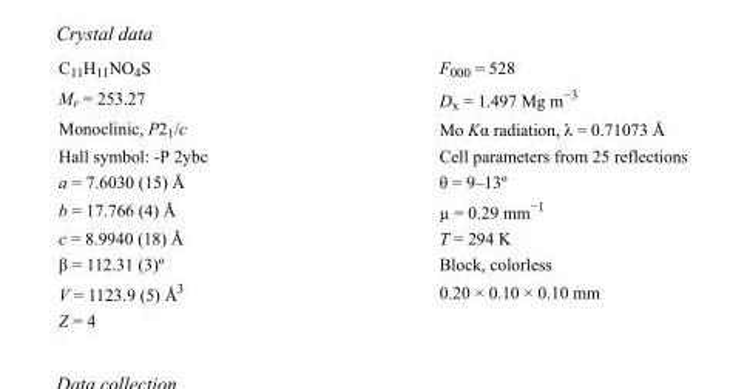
<table><tbody><tr><td>C<sub>11</sub>H<sub>11</sub>NO<sub>4</sub>S</td><td>F000 = 528</td></tr><tr><td>M<sub>r</sub> = 253.27</td><td>D<sub>x</sub> = 1.497 Mg m<sup>−3</sup></td></tr><tr><td>Monoclinic, P2<sub>1</sub>/c</td><td>Mo Kα radiation, λ = 0.71073 Å</td></tr><tr><td>Hall symbol: -P 2ybc</td><td>Cell parameters from 25 reflections</td></tr><tr><td>a = 7.6030 (15) Å</td><td>θ = 9–13º</td></tr><tr><td>b = 17.766 (4) Å</td><td>µ = 0.29 mm<sup>−1</sup></td></tr><tr><td>c = 8.9940 (18) Å</td><td>T = 294 K</td></tr><tr><td>β = 112.31 (3)º</td><td>Block, colorless</td></tr><tr><td>V = 1123.9 (5) Å<sup>3</sup></td><td>0.20 × 0.10 × 0.10 mm</td></tr><tr><td>Z = 4</td><td></td></tr></tbody></table>